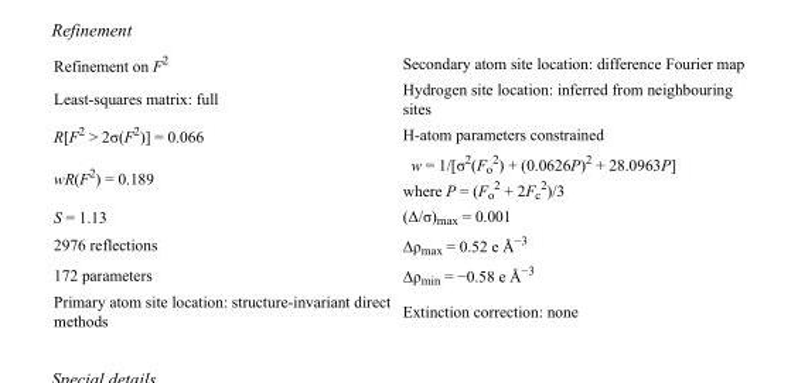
<table><tbody><tr><td>Refinement on F<sup>2</sup></td><td>Secondary atom site location: difference Fourier map</td></tr><tr><td>Least-squares matrix: full</td><td>Hydrogen site location: inferred from neighbouring sites</td></tr><tr><td>R[F<sup>2</sup> &gt; 2σ(F<sup>2</sup>)] = 0.066</td><td>H-atom parameters constrained</td></tr><tr><td>wR(F<sup>2</sup>) = 0.189</td><td>w = 1/[σ<sup>2</sup>(F<sub>o</sub> <sup>2</sup>) + (0.0626P)<sup>2</sup> + 28.0963P] where P = (F<sub>o</sub> <sup>2</sup> + 2F<sub>c</sub> <sup>2</sup>)/3</td></tr><tr><td>S = 1.13</td><td>(Δ/σ)<sub>max</sub> = 0.001</td></tr><tr><td>2976 reflections</td><td>Δρ<sub>max</sub> = 0.52 e Å<sup>−3</sup></td></tr><tr><td>172 parameters</td><td>Δρ<sub>min</sub> = −0.58 e Å<sup>−3</sup></td></tr><tr><td>Primary atom site location: structure-invariant direct methods</td><td>Extinction correction: none</td></tr></tbody></table>